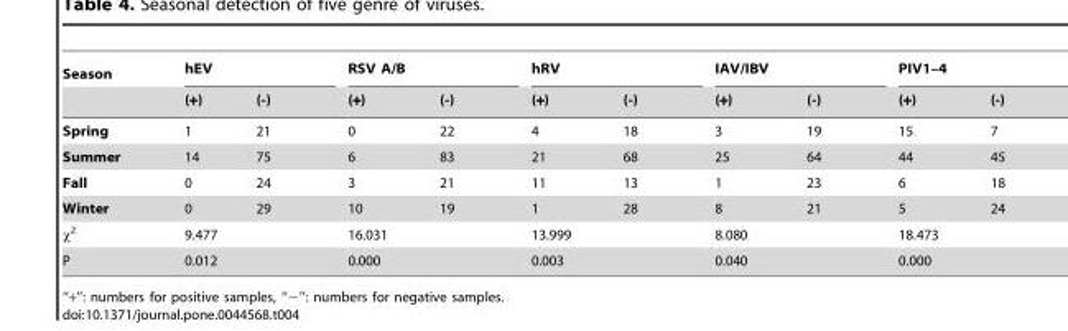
<table><thead><tr><td rowspan="2">Season</td><td colspan="2">hEV</td><td colspan="2">RSV A/B</td><td colspan="2">hRV</td><td colspan="2">IAV/IBV</td><td colspan="2">PIV1–4</td></tr><tr><td>(+)</td><td>(-)</td><td>(+)</td><td>(-)</td><td>(+)</td><td>(-)</td><td>(+)</td><td>(-)</td><td>(+)</td><td>(-)</td></tr></thead><tbody><tr><td>Spring</td><td>1</td><td>21</td><td>0</td><td>22</td><td>4</td><td>18</td><td>3</td><td>19</td><td>15</td><td>7</td></tr><tr><td>Summer</td><td>14</td><td>75</td><td>6</td><td>83</td><td>21</td><td>68</td><td>25</td><td>64</td><td>44</td><td>45</td></tr><tr><td>Fall</td><td>0</td><td>24</td><td>3</td><td>21</td><td>11</td><td>13</td><td>1</td><td>23</td><td>6</td><td>18</td></tr><tr><td>Winter</td><td>0</td><td>29</td><td>10</td><td>19</td><td>1</td><td>28</td><td>8</td><td>21</td><td>5</td><td>24</td></tr><tr><td>x2</td><td colspan="2">9.477</td><td colspan="2">16.031</td><td colspan="2">13.999</td><td colspan="2">8.080</td><td colspan="2">18.473</td></tr><tr><td>P</td><td colspan="2">0.012</td><td colspan="2">0.000</td><td colspan="2">0.003</td><td colspan="2">0.040</td><td colspan="2">0.000</td></tr></tbody></table>